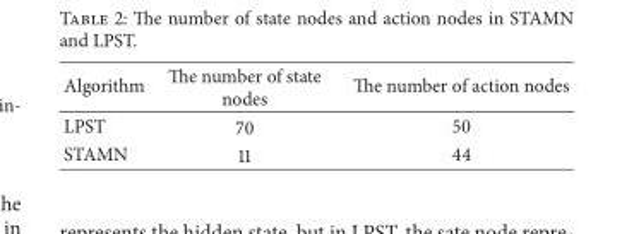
<table><thead><tr><td>Algorithm</td><td>The number of state nodes</td><td>The number of action nodes</td></tr></thead><tbody><tr><td>LPST</td><td>70</td><td>50</td></tr><tr><td>STAMN</td><td>11</td><td>44</td></tr></tbody></table>